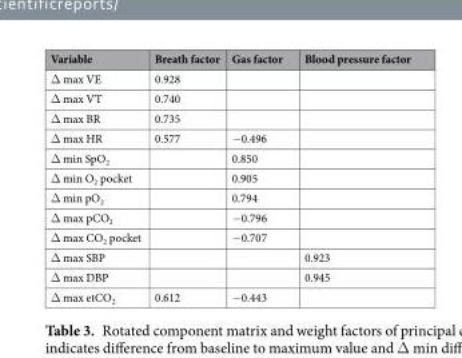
<table><thead><tr><td>Variable</td><td>Breath factor</td><td>Gas factor</td><td>Blood pressure factor</td></tr></thead><tbody><tr><td>Δ max VE</td><td>0.928</td><td></td><td></td></tr><tr><td>Δ max VT</td><td>0.740</td><td></td><td></td></tr><tr><td>Δ max BR</td><td>0.735</td><td></td><td></td></tr><tr><td>Δ max HR</td><td>0.577</td><td>−0.496</td><td></td></tr><tr><td>Δ min SpO<sub>2</sub></td><td></td><td>0.850</td><td></td></tr><tr><td>Δ min O<sub>2</sub> pocket</td><td></td><td>0.905</td><td></td></tr><tr><td>Δ min pO<sub>2</sub></td><td></td><td>0.794</td><td></td></tr><tr><td>Δ max pCO<sub>2</sub></td><td></td><td>−0.796</td><td></td></tr><tr><td>Δ max CO<sub>2</sub> pocket</td><td></td><td>−0.707</td><td></td></tr><tr><td>Δ max SBP</td><td></td><td></td><td>0.923</td></tr><tr><td>Δ max DBP</td><td></td><td></td><td>0.945</td></tr><tr><td>Δ max etCO<sub>2</sub></td><td>0.612</td><td>−0.443</td><td></td></tr></tbody></table>